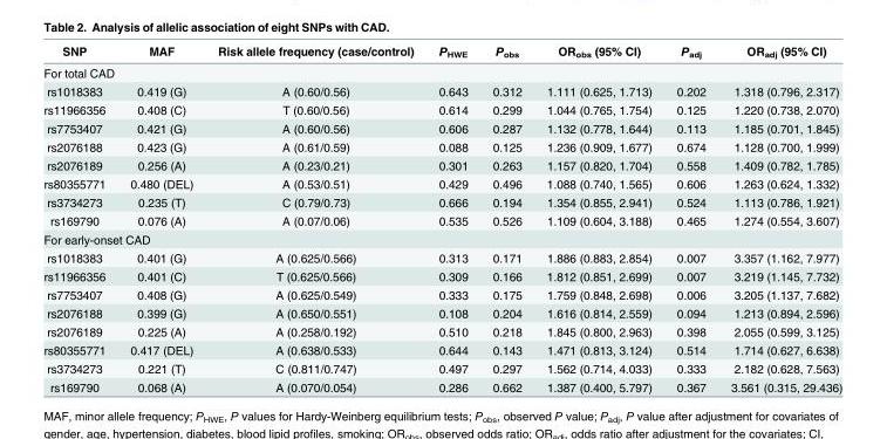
<table><thead><tr><td>SNP</td><td>MAF</td><td>Risk allele frequency (case/control)</td><td>P<sub>HWE</sub></td><td>P<sub>obs</sub></td><td>OR<sub>obs</sub> (95% CI)</td><td>P<sub>adj</sub></td><td>OR<sub>adj</sub> (95% CI)</td></tr></thead><tbody><tr><td colspan="8">For total CAD</td></tr><tr><td>rs1018383</td><td>0.419 (G)</td><td>A (0.60/0.56)</td><td>0.643</td><td>0.312</td><td>1.111 (0.625, 1.713)</td><td>0.202</td><td>1.318 (0.796, 2.317)</td></tr><tr><td>rs11966356</td><td>0.408 (C)</td><td>T (0.60/0.56)</td><td>0.614</td><td>0.299</td><td>1.044 (0.765, 1.754)</td><td>0.125</td><td>1.220 (0.738, 2.070)</td></tr><tr><td>rs7753407</td><td>0.421 (G)</td><td>A (0.60/0.56)</td><td>0.606</td><td>0.287</td><td>1.132 (0.778, 1.644)</td><td>0.113</td><td>1.185 (0.701, 1.845)</td></tr><tr><td>rs2076188</td><td>0.423 (G)</td><td>A (0.61/0.59)</td><td>0.088</td><td>0.125</td><td>1.236 (0.909, 1.677)</td><td>0.674</td><td>1.128 (0.700, 1.999)</td></tr><tr><td>rs2076189</td><td>0.256 (A)</td><td>A (0.23/0.21)</td><td>0.301</td><td>0.263</td><td>1.157 (0.820, 1.704)</td><td>0.558</td><td>1.409 (0.782, 1.785)</td></tr><tr><td>rs80355771</td><td>0.480 (DEL)</td><td>A (0.53/0.51)</td><td>0.429</td><td>0.496</td><td>1.088 (0.740, 1.565)</td><td>0.606</td><td>1.263 (0.624, 1.332)</td></tr><tr><td>rs3734273</td><td>0.235 (T)</td><td>C (0.79/0.73)</td><td>0.666</td><td>0.194</td><td>1.354 (0.855, 2.941)</td><td>0.524</td><td>1.113 (0.786, 1.921)</td></tr><tr><td>rs169790</td><td>0.076 (A)</td><td>A (0.07/0.06)</td><td>0.535</td><td>0.526</td><td>1.109 (0.604, 3.188)</td><td>0.465</td><td>1.274 (0.554, 3.607)</td></tr><tr><td colspan="8">For early-onset CAD</td></tr><tr><td>rs1018383</td><td>0.401 (G)</td><td>A (0.625/0.566)</td><td>0.313</td><td>0.171</td><td>1.886 (0.883, 2.854)</td><td>0.007</td><td>3.357 (1.162, 7.977)</td></tr><tr><td>rs11966356</td><td>0.401 (C)</td><td>T (0.625/0.566)</td><td>0.309</td><td>0.166</td><td>1.812 (0.851, 2.699)</td><td>0.007</td><td>3.219 (1.145, 7.732)</td></tr><tr><td>rs7753407</td><td>0.408 (G)</td><td>A (0.625/0.549)</td><td>0.333</td><td>0.175</td><td>1.759 (0.848, 2.698)</td><td>0.006</td><td>3.205 (1.137, 7.682)</td></tr><tr><td>rs2076188</td><td>0.399 (G)</td><td>A (0.650/0.551)</td><td>0.108</td><td>0.204</td><td>1.616 (0.814, 2.559)</td><td>0.094</td><td>1.213 (0.894, 2.596)</td></tr><tr><td>rs2076189</td><td>0.225 (A)</td><td>A (0.258/0.192)</td><td>0.510</td><td>0.218</td><td>1.845 (0.800, 2.963)</td><td>0.398</td><td>2.055 (0.599, 3.125)</td></tr><tr><td>rs80355771</td><td>0.417 (DEL)</td><td>A (0.638/0.533)</td><td>0.644</td><td>0.143</td><td>1.471 (0.813, 3.124)</td><td>0.514</td><td>1.714 (0.627, 6.638)</td></tr><tr><td>rs3734273</td><td>0.221 (T)</td><td>C (0.811/0.747)</td><td>0.497</td><td>0.297</td><td>1.562 (0.714, 4.033)</td><td>0.333</td><td>2.182 (0.628, 7.563)</td></tr><tr><td>rs169790</td><td>0.068 (A)</td><td>A (0.070/0.054)</td><td>0.286</td><td>0.662</td><td>1.387 (0.400, 5.797)</td><td>0.367</td><td>3.561 (0.315, 29.436)</td></tr></tbody></table>